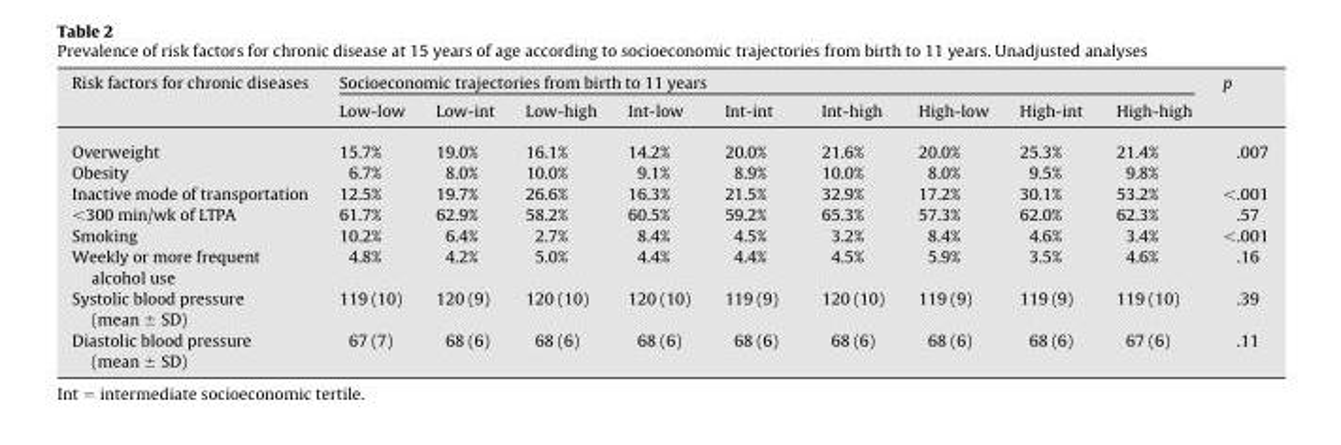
<table><thead><tr><td rowspan="2">Risk factors for chronic diseases</td><td colspan="9">Socioeconomic trajectories from birth to 11 years</td><td rowspan="2">p</td></tr><tr><td>Low-low</td><td>Low-int</td><td>Low-high</td><td>Int-low</td><td>Int-int</td><td>Int-high</td><td>High-low</td><td>High-int</td><td>High-high</td></tr></thead><tbody><tr><td>Overweight</td><td>15.7%</td><td>19.0%</td><td>16.1%</td><td>14.2%</td><td>20.0%</td><td>21.6%</td><td>20.0%</td><td>25.3%</td><td>21.4%</td><td rowspan="2">.007</td></tr><tr><td>Obesity</td><td>6.7%</td><td>8.0%</td><td>10.0%</td><td>9.1%</td><td>8.9%</td><td>10.0%</td><td>8.0%</td><td>9.5%</td><td>9.8%</td></tr><tr><td>Inactive mode of transportation</td><td>12.5%</td><td>19.7%</td><td>26.6%</td><td>16.3%</td><td>21.5%</td><td>32.9%</td><td>17.2%</td><td>30.1%</td><td>53.2%</td><td>&lt;.001</td></tr><tr><td>&lt;300 min/wk of LTPA</td><td>61.7%</td><td>62.9%</td><td>58.2%</td><td>60.5%</td><td>59.2%</td><td>65.3%</td><td>57.3%</td><td>62.0%</td><td>62.3%</td><td>.57</td></tr><tr><td>Smoking</td><td>10.2%</td><td>6.4%</td><td>2.7%</td><td>8.4%</td><td>4.5%</td><td>3.2%</td><td>8.4%</td><td>4.6%</td><td>3.4%</td><td>&lt;.001</td></tr><tr><td>Weekly or more frequent alcohol use</td><td>4.8%</td><td>4.2%</td><td>5.0%</td><td>4.4%</td><td>4.4%</td><td>4.5%</td><td>5.9%</td><td>3.5%</td><td>4.6%</td><td>.16</td></tr><tr><td>Systolic blood pressure (mean ± SD)</td><td>119 (10)</td><td>120 (9)</td><td>120 (10)</td><td>120 (10)</td><td>119 (9)</td><td>120 (10)</td><td>119 (9)</td><td>119 (9)</td><td>119 (10)</td><td>.39</td></tr><tr><td>Diastolic blood pressure (mean ± SD)</td><td>67 (7)</td><td>68 (6)</td><td>68 (6)</td><td>68 (6)</td><td>68 (6)</td><td>68 (6)</td><td>68 (6)</td><td>68 (6)</td><td>67 (6)</td><td>.11</td></tr></tbody></table>